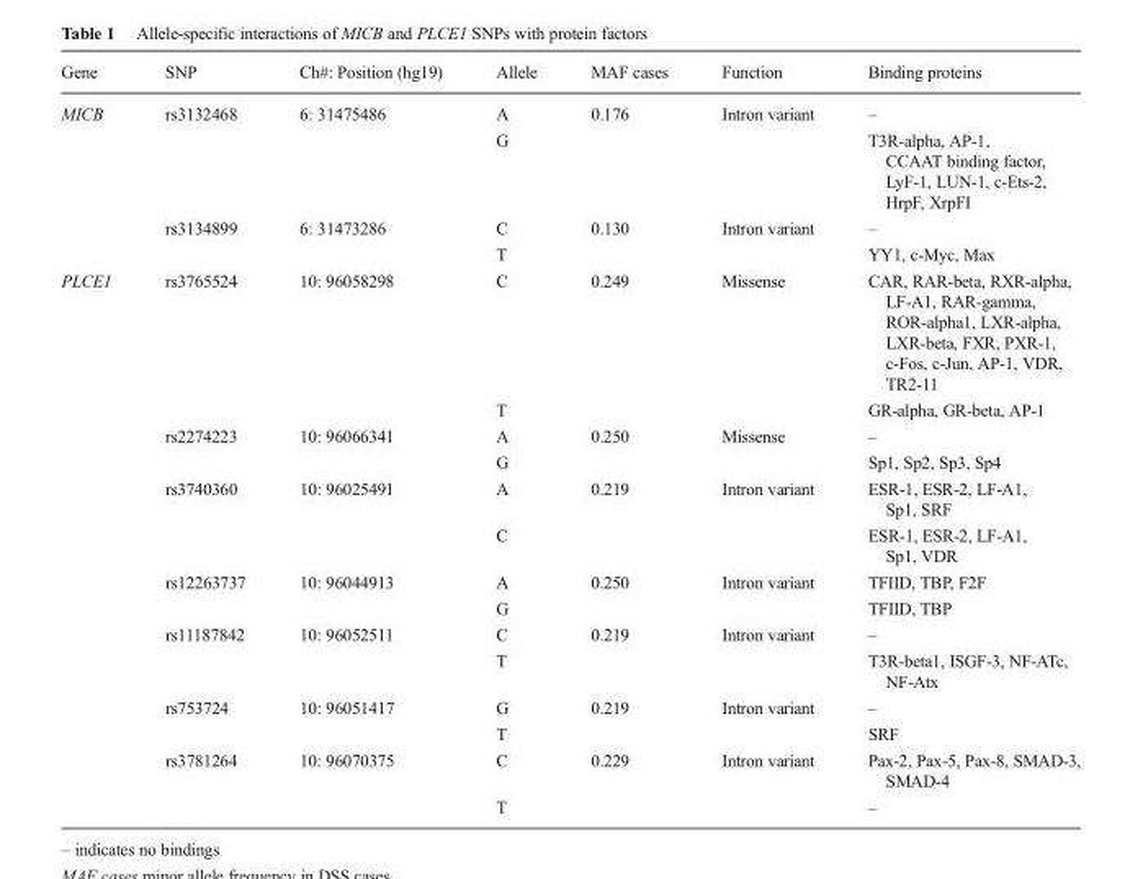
<table><thead><tr><td>Gene</td><td>SNP</td><td>Ch#: Position (hg19)</td><td>Allele</td><td>MAF cases</td><td>Function</td><td>Binding proteins</td></tr></thead><tbody><tr><td rowspan="4">MICB</td><td rowspan="2">rs3132468</td><td rowspan="2">6: 31475486</td><td>A</td><td rowspan="2">0.176</td><td rowspan="2">Intron variant</td><td>–</td></tr><tr><td>G</td><td>T3R-alpha, AP-1, CCAAT binding factor, LyF-1, LUN-1, c-Ets-2, HrpF, XrpFI</td></tr><tr><td rowspan="2">rs3134899</td><td rowspan="2">6: 31473286</td><td>C</td><td rowspan="2">0.130</td><td rowspan="2">Intron variant</td><td>–</td></tr><tr><td>T</td><td>YY1, c-Myc, Max</td></tr><tr><td rowspan="14">PLCE1</td><td rowspan="2">rs3765524</td><td rowspan="2">10: 96058298</td><td>C</td><td rowspan="2">0.249</td><td rowspan="2">Missense</td><td>CAR, RAR-beta, RXR-alpha, LF-A1, RAR-gamma, ROR-alpha1, LXR-alpha, LXR-beta, FXR, PXR-1, c-Fos, c-Jun, AP-1, VDR, TR2-11</td></tr><tr><td>T</td><td>GR-alpha, GR-beta, AP-1</td></tr><tr><td rowspan="2">rs2274223</td><td rowspan="2">10: 96066341</td><td>A</td><td rowspan="2">0.250</td><td rowspan="2">Missense</td><td>–</td></tr><tr><td>G</td><td>Sp1, Sp2, Sp3, Sp4</td></tr><tr><td rowspan="2">rs3740360</td><td rowspan="2">10: 96025491</td><td>A</td><td rowspan="2">0.219</td><td rowspan="2">Intron variant</td><td>ESR-1, ESR-2, LF-A1, Sp1, SRF</td></tr><tr><td>C</td><td>ESR-1, ESR-2, LF-A1, Sp1, VDR</td></tr><tr><td rowspan="2">rs12263737</td><td rowspan="2">10: 96044913</td><td>A</td><td rowspan="2">0.250</td><td rowspan="2">Intron variant</td><td>TFIID, TBP, F2F</td></tr><tr><td>G</td><td>TFIID, TBP</td></tr><tr><td rowspan="2">rs11187842</td><td rowspan="2">10: 96052511</td><td>C</td><td rowspan="2">0.219</td><td rowspan="2">Intron variant</td><td>–</td></tr><tr><td>T</td><td>T3R-beta1, ISGF-3, NF-ATc, NF-Atx</td></tr><tr><td rowspan="2">rs753724</td><td rowspan="2">10: 96051417</td><td>G</td><td rowspan="2">0.219</td><td rowspan="2">Intron variant</td><td>–</td></tr><tr><td>T</td><td>SRF</td></tr><tr><td rowspan="2">rs3781264</td><td rowspan="2">10: 96070375</td><td>C</td><td rowspan="2">0.229</td><td rowspan="2">Intron variant</td><td>Pax-2, Pax-5, Pax-8, SMAD-3, SMAD-4</td></tr><tr><td>T</td><td>–</td></tr></tbody></table>